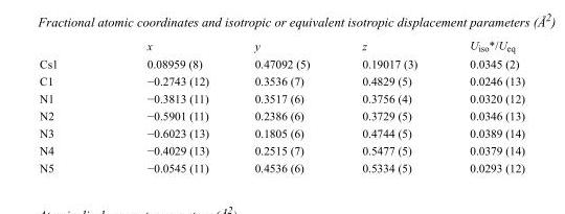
<table><thead><tr><td></td><td>x</td><td>y</td><td>z</td><td>U<sub>iso</sub>*/U<sub>eq</sub></td></tr></thead><tbody><tr><td>Cs1</td><td>0.08959 (8)</td><td>0.47092 (5)</td><td>0.19017 (3)</td><td>0.0345 (2)</td></tr><tr><td>C1</td><td>−0.2743 (12)</td><td>0.3536 (7)</td><td>0.4829 (5)</td><td>0.0246 (13)</td></tr><tr><td>N1</td><td>−0.3813 (11)</td><td>0.3517 (6)</td><td>0.3756 (4)</td><td>0.0320 (12)</td></tr><tr><td>N2</td><td>−0.5901 (11)</td><td>0.2386 (6)</td><td>0.3729 (5)</td><td>0.0346 (13)</td></tr><tr><td>N3</td><td>−0.6023 (13)</td><td>0.1805 (6)</td><td>0.4744 (5)</td><td>0.0389 (14)</td></tr><tr><td>N4</td><td>−0.4029 (13)</td><td>0.2515 (7)</td><td>0.5477 (5)</td><td>0.0379 (14)</td></tr><tr><td>N5</td><td>−0.0545 (11)</td><td>0.4536 (6)</td><td>0.5334 (5)</td><td>0.0293 (12)</td></tr></tbody></table>